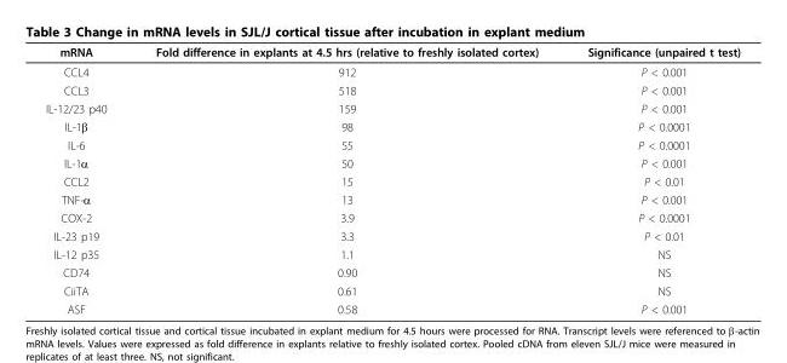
<table><thead><tr><td>mRNA</td><td>Fold difference in explants at 4.5 hrs (relative to freshly isolated cortex)</td><td>Significance (unpaired t test)</td></tr></thead><tbody><tr><td>CCL4</td><td>912</td><td>P &lt; 0.001</td></tr><tr><td>CCL3</td><td>518</td><td>P &lt; 0.001</td></tr><tr><td>IL-12/23 p40</td><td>159</td><td>P &lt; 0.001</td></tr><tr><td>IL-1β</td><td>98</td><td>P &lt; 0.0001</td></tr><tr><td>IL-6</td><td>55</td><td>P &lt; 0.0001</td></tr><tr><td>IL-1α</td><td>50</td><td>P &lt; 0.001</td></tr><tr><td>CCL2</td><td>15</td><td>P &lt; 0.01</td></tr><tr><td>TNF-α</td><td>13</td><td>P &lt; 0.001</td></tr><tr><td>COX-2</td><td>3.9</td><td>P &lt; 0.0001</td></tr><tr><td>IL-23 p19</td><td>3.3</td><td>P &lt; 0.01</td></tr><tr><td>IL-12 p35</td><td>1.1</td><td>NS</td></tr><tr><td>CD74</td><td>0.90</td><td>NS</td></tr><tr><td>CiiTA</td><td>0.61</td><td>NS</td></tr><tr><td>ASF</td><td>0.58</td><td>P &lt; 0.001</td></tr></tbody></table>